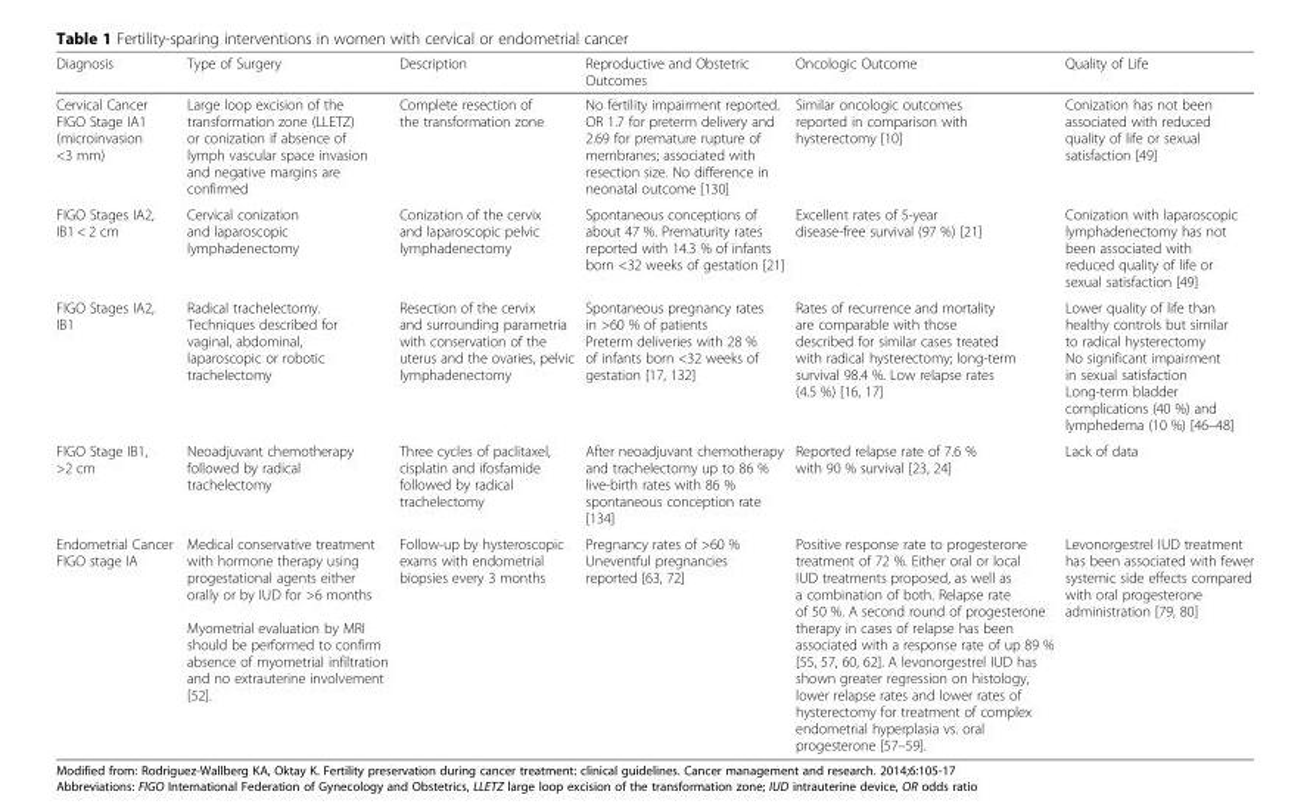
<table><thead><tr><td>Diagnosis</td><td>Type of Surgery</td><td>Description</td><td>Reproductive and Obstetric Outcomes</td><td>Oncologic Outcome</td><td>Quality of Life</td></tr></thead><tbody><tr><td>Cervical Cancer FIGO Stage IA1 (microinvasion &lt;3 mm)</td><td>Large loop excision of the transformation zone (LLETZ) or conization if absence of lymph vascular space invasion and negative margins are confirmed</td><td>Complete resection of the transformation zone</td><td>No fertility impairment reported. OR 1.7 for preterm delivery and 2.69 for premature rupture of membranes; associated with resection size. No difference in neonatal outcome [130]</td><td>Similar oncologic outcomes reported in comparison with hysterectomy [10]</td><td>Conization has not been associated with reduced quality of life or sexual satisfaction [49]</td></tr><tr><td>FIGO Stages IA2, IB1 &lt; 2 cm</td><td>Cervical conization and laparoscopic lymphadenectomy</td><td>Conization of the cervix and laparoscopic pelvic lymphadenectomy</td><td>Spontaneous conceptions of about 47 %. Prematurity rates reported with 14.3 % of infants born &lt;32 weeks of gestation [21]</td><td>Excellent rates of 5-year disease-free survival (97 %) [21]</td><td>Conization with laparoscopic lymphadenectomy has not been associated with reduced quality of life or sexual satisfaction [49]</td></tr><tr><td>FIGO Stages IA2, IB1</td><td>Radical trachelectomy. Techniques described for vaginal, abdominal, laparoscopic or robotic trachelectomy</td><td>Resection of the cervix and surrounding parametria with conservation of the uterus and the ovaries, pelvic lymphadenectomy</td><td>Spontaneous pregnancy rates in &gt;60 % of patients Preterm deliveries with 28 % of infants born &lt;32 weeks of gestation [17, 132]</td><td>Rates of recurrence and mortality are comparable with those described for similar cases treated with radical hysterectomy; long-term survival 98.4 %. Low relapse rates (4.5 %) [16, 17]</td><td>Lower quality of life than healthy controls but similar to radical hysterectomy No significant impairment in sexual satisfaction Long-term bladder complications (40 %) and lymphedema (10 %) [46–48]</td></tr><tr><td>FIGO Stage IB1, &gt;2 cm</td><td>Neoadjuvant chemotherapy followed by radical trachelectomy</td><td>Three cycles of paclitaxel, cisplatin and ifosfamide followed by radical trachelectomy</td><td>After neoadjuvant chemotherapy and trachelectomy up to 86 % live-birth rates with 86 % spontaneous conception rate [134]</td><td>Reported relapse rate of 7.6 % with 90 % survival [23, 24]</td><td>Lack of data</td></tr><tr><td>Endometrial Cancer FIGO stage IA</td><td>Medical conservative treatment with hormone therapy using progestational agents either orally or by IUD for &gt;6 months Myometrial evaluation by MRI should be performed to confirm absence of myometrial infiltration and no extrauterine involvement [52].</td><td>Follow-up by hysteroscopic exams with endometrial biopsies every 3 months</td><td>Pregnancy rates of &gt;60 % Uneventful pregnancies reported [63, 72]</td><td>Positive response rate to progesterone treatment of 72 %. Either oral or local IUD treatments proposed, as well as a combination of both. Relapse rate of 50 %. A second round of progesterone therapy in cases of relapse has been associated with a response rate of up 89 % [55, 57, 60, 62]. A levonorgestrel IUD has shown greater regression on histology, lower relapse rates and lower rates of hysterectomy for treatment of complex endometrial hyperplasia vs. oral progesterone [57–59].</td><td>Levonorgestrel IUD treatment has been associated with fewer systemic side effects compared with oral progesterone administration [79, 80]</td></tr></tbody></table>